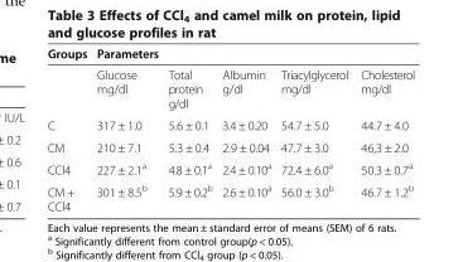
<table><thead><tr><td>Groups</td><td>Parameters</td><td></td><td></td><td></td><td></td></tr></thead><tbody><tr><td></td><td>Glucose mg/dl</td><td>Total protein g/dl</td><td>Albumin g/dl</td><td>Triacylglycerol mg/dl</td><td>Cholesterol mg/dl</td></tr><tr><td>C</td><td>317 ± 1.0</td><td>5.6 ± 0.1</td><td>3.4 ± 0.20</td><td>54.7 ± 5.0</td><td>44.7 ± 4.0</td></tr><tr><td>CM</td><td>210 ± 7.1</td><td>5.3 ± 0.4</td><td>2.9 ± 0.04</td><td>47.7 ± 3.0</td><td>46,3 ± 2.0</td></tr><tr><td>CCl4</td><td>227 ± 2.1<sup>a</sup></td><td>4.8 ± 0.1<sup>a</sup></td><td>2.4 ± 0.10<sup>a</sup></td><td>72.4 ± 6.0<sup>a</sup></td><td>50.3 ± 0.7<sup>a</sup></td></tr><tr><td>CM + CCl4</td><td>301 ± 8.5<sup>b</sup></td><td>5.9 ± 0.2<sup>b</sup></td><td>2.6 ± 0.10<sup>a</sup></td><td>56.0 ± 3.0<sup>b</sup></td><td>46.7 ± 1.2<sup>b</sup></td></tr></tbody></table>